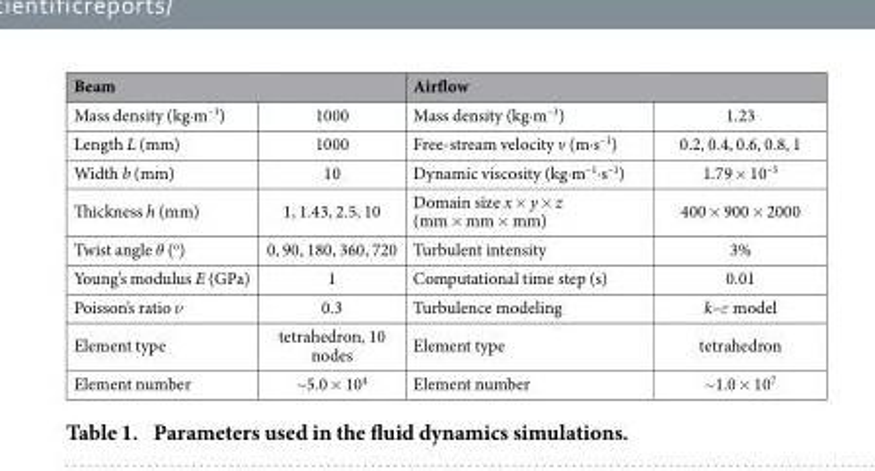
<table><thead><tr><td colspan="2">Beam</td><td colspan="2">Airflow</td></tr><tr><td>Mass density (kg·m<sup>–3</sup>)</td><td>1000</td><td>Mass density (kg·m<sup>–3</sup>)</td><td>1.23</td></tr></thead><tbody><tr><td>Length L (mm)</td><td>1000</td><td>Free-stream velocity v (m·s<sup>–1</sup>)</td><td>0.2, 0.4, 0.6, 0.8, 1</td></tr><tr><td>Width b (mm)</td><td>10</td><td>Dynamic viscosity (kg·m<sup>–1</sup>·s<sup>–1</sup>)</td><td>1.79 × 10<sup>–5</sup></td></tr><tr><td>Thickness h (mm)</td><td>1, 1.43, 2.5, 10</td><td>Domain size x × y × z (mm × mm × mm)</td><td>400 × 900 × 2000</td></tr><tr><td>Twist angle θ (<sup>o</sup>)</td><td>0, 90, 180, 360, 720</td><td>Turbulent intensity</td><td>3%</td></tr><tr><td>Young’s modulus E (GPa)</td><td>1</td><td>Computational time step (s)</td><td>0.01</td></tr><tr><td>Poisson’s ratio ν</td><td>0.3</td><td>Turbulence modeling</td><td>k–ε model</td></tr><tr><td>Element type</td><td>tetrahedron, 10 nodes</td><td>Element type</td><td>tetrahedron</td></tr><tr><td>Element number</td><td>~5.0 × 10<sup>4</sup></td><td>Element number</td><td>~1.0 × 10<sup>7</sup></td></tr></tbody></table>